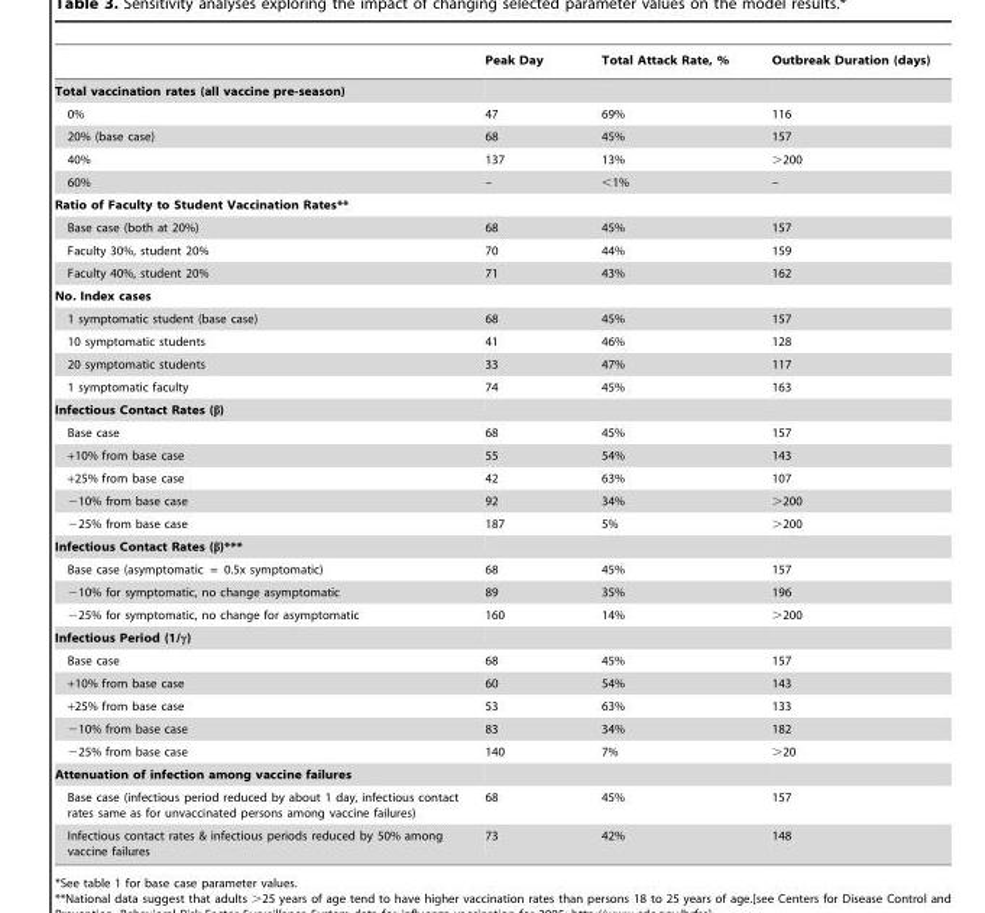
<table><thead><tr><td></td><td>Peak Day</td><td>Total Attack Rate, %</td><td>Outbreak Duration (days)</td></tr></thead><tbody><tr><td colspan="4">Total vaccination rates (all vaccine pre-season)</td></tr><tr><td>0%</td><td>47</td><td>69%</td><td>116</td></tr><tr><td>20% (base case)</td><td>68</td><td>45%</td><td>157</td></tr><tr><td>40%</td><td>137</td><td>13%</td><td>&gt;200</td></tr><tr><td>60%</td><td>–</td><td>&lt;1%</td><td>–</td></tr><tr><td colspan="4">Ratio of Faculty to Student Vaccination Rates**</td></tr><tr><td>Base case (both at 20%)</td><td>68</td><td>45%</td><td>157</td></tr><tr><td>Faculty 30%, student 20%</td><td>70</td><td>44%</td><td>159</td></tr><tr><td>Faculty 40%, student 20%</td><td>71</td><td>43%</td><td>162</td></tr><tr><td colspan="4">No. Index cases</td></tr><tr><td>1 symptomatic student (base case)</td><td>68</td><td>45%</td><td>157</td></tr><tr><td>10 symptomatic students</td><td>41</td><td>46%</td><td>128</td></tr><tr><td>20 symptomatic students</td><td>33</td><td>47%</td><td>117</td></tr><tr><td>1 symptomatic faculty</td><td>74</td><td>45%</td><td>163</td></tr><tr><td colspan="4">Infectious Contact Rates (β)</td></tr><tr><td>Base case</td><td>68</td><td>45%</td><td>157</td></tr><tr><td>+10% from base case</td><td>55</td><td>54%</td><td>143</td></tr><tr><td>+25% from base case</td><td>42</td><td>63%</td><td>107</td></tr><tr><td>−10% from base case</td><td>92</td><td>34%</td><td>&gt;200</td></tr><tr><td>−25% from base case</td><td>187</td><td>5%</td><td>&gt;200</td></tr><tr><td colspan="4">Infectious Contact Rates (β)***</td></tr><tr><td>Base case (asymptomatic = 0.5x symptomatic)</td><td>68</td><td>45%</td><td>157</td></tr><tr><td>−10% for symptomatic, no change asymptomatic</td><td>89</td><td>35%</td><td>196</td></tr><tr><td>−25% for symptomatic, no change for asymptomatic</td><td>160</td><td>14%</td><td>&gt;200</td></tr><tr><td colspan="4">Infectious Period (1/γ)</td></tr><tr><td>Base case</td><td>68</td><td>45%</td><td>157</td></tr><tr><td>+10% from base case</td><td>60</td><td>54%</td><td>143</td></tr><tr><td>+25% from base case</td><td>53</td><td>63%</td><td>133</td></tr><tr><td>−10% from base case</td><td>83</td><td>34%</td><td>182</td></tr><tr><td>−25% from base case</td><td>140</td><td>7%</td><td>&gt;20</td></tr><tr><td colspan="4">Attenuation of infection among vaccine failures</td></tr><tr><td>Base case (infectious period reduced by about 1 day, infectious contact rates same as for unvaccinated persons among vaccine failures)</td><td>68</td><td>45%</td><td>157</td></tr><tr><td>Infectious contact rates &amp; infectious periods reduced by 50% among vaccine failures</td><td>73</td><td>42%</td><td>148</td></tr></tbody></table>